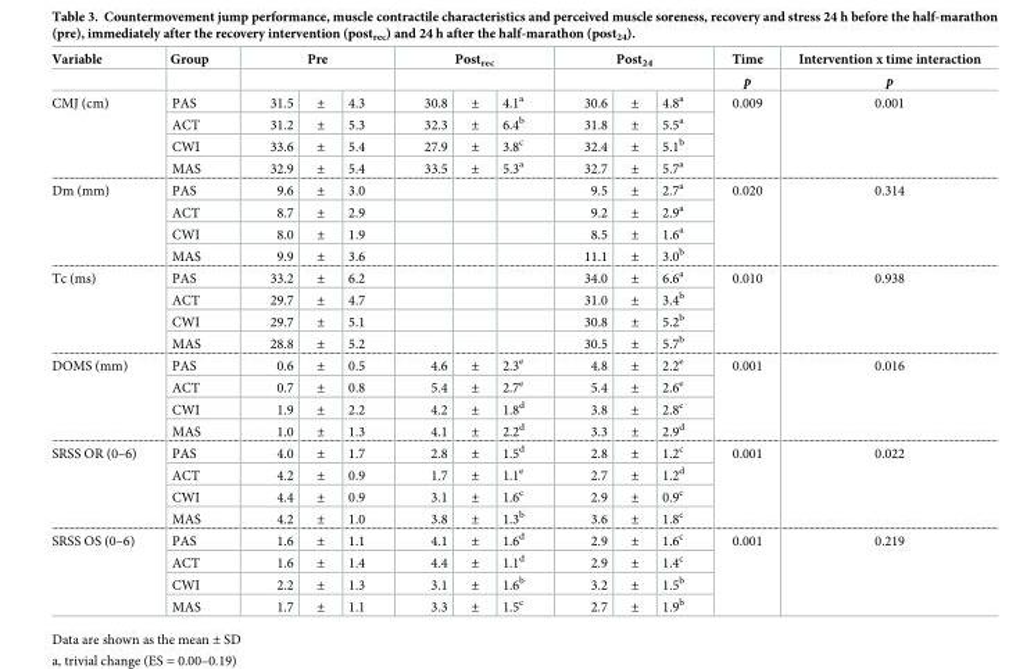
<table><thead><tr><td rowspan="2">Variable</td><td rowspan="2">Group</td><td colspan="3">Pre</td><td colspan="3">Post<sub>rec</sub></td><td colspan="3">Post<sub>24</sub></td><td rowspan="2">Time p</td><td rowspan="2">Intervention x time interaction p</td></tr><tr><td></td><td></td><td></td><td></td><td></td><td></td><td></td><td></td><td></td></tr></thead><tbody><tr><td rowspan="4">CMJ (cm)</td><td>PAS</td><td>31.5</td><td>±</td><td>4.3</td><td>30.8</td><td>±</td><td>4.1<sup>a</sup></td><td>30.6</td><td>±</td><td>4.8<sup>a</sup></td><td rowspan="4">0.009</td><td rowspan="4">0.001</td></tr><tr><td>ACT</td><td>31.2</td><td>±</td><td>5.3</td><td>32.3</td><td>±</td><td>6.4<sup>b</sup></td><td>31.8</td><td>±</td><td>5.5<sup>a</sup></td></tr><tr><td>CWI</td><td>33.6</td><td>±</td><td>5.4</td><td>27.9</td><td>±</td><td>3.8<sup>c</sup></td><td>32.4</td><td>±</td><td>5.1<sup>b</sup></td></tr><tr><td>MAS</td><td>32.9</td><td>±</td><td>5.4</td><td>33.5</td><td>±</td><td>5.3<sup>a</sup></td><td>32.7</td><td>±</td><td>5.7<sup>a</sup></td></tr><tr><td rowspan="4">Dm (mm)</td><td>PAS</td><td>9.6</td><td>±</td><td>3.0</td><td></td><td></td><td></td><td>9.5</td><td>±</td><td>2.7<sup>a</sup></td><td rowspan="4">0.020</td><td rowspan="4">0.314</td></tr><tr><td>ACT</td><td>8.7</td><td>±</td><td>2.9</td><td></td><td></td><td></td><td>9.2</td><td>±</td><td>2.9<sup>a</sup></td></tr><tr><td>CWI</td><td>8.0</td><td>±</td><td>1.9</td><td></td><td></td><td></td><td>8.5</td><td>±</td><td>1.6<sup>a</sup></td></tr><tr><td>MAS</td><td>9.9</td><td>±</td><td>3.6</td><td></td><td></td><td></td><td>11.1</td><td>±</td><td>3.0<sup>b</sup></td></tr><tr><td rowspan="4">Tc (ms)</td><td>PAS</td><td>33.2</td><td>±</td><td>6.2</td><td></td><td></td><td></td><td>34.0</td><td>±</td><td>6.6<sup>a</sup></td><td rowspan="4">0.010</td><td rowspan="4">0.938</td></tr><tr><td>ACT</td><td>29.7</td><td>±</td><td>4.7</td><td></td><td></td><td></td><td>31.0</td><td>±</td><td>3.4<sup>b</sup></td></tr><tr><td>CWI</td><td>29.7</td><td>±</td><td>5.1</td><td></td><td></td><td></td><td>30.8</td><td>±</td><td>5.2<sup>b</sup></td></tr><tr><td>MAS</td><td>28.8</td><td>±</td><td>5.2</td><td></td><td></td><td></td><td>30.5</td><td>±</td><td>5.7<sup>b</sup></td></tr><tr><td rowspan="4">DOMS (mm)</td><td>PAS</td><td>0.6</td><td>±</td><td>0.5</td><td>4.6</td><td>±</td><td>2.3<sup>e</sup></td><td>4.8</td><td>±</td><td>2.2<sup>e</sup></td><td rowspan="4">0.001</td><td rowspan="4">0.016</td></tr><tr><td>ACT</td><td>0.7</td><td>±</td><td>0.8</td><td>5.4</td><td>±</td><td>2.7<sup>e</sup></td><td>5.4</td><td>±</td><td>2.6<sup>e</sup></td></tr><tr><td>CWI</td><td>1.9</td><td>±</td><td>2.2</td><td>4.2</td><td>±</td><td>1.8<sup>d</sup></td><td>3.8</td><td>±</td><td>2.8<sup>c</sup></td></tr><tr><td>MAS</td><td>1.0</td><td>±</td><td>1.3</td><td>4.1</td><td>±</td><td>2.2<sup>d</sup></td><td>3.3</td><td>±</td><td>2.9<sup>d</sup></td></tr><tr><td rowspan="4">SRSS OR (0–6)</td><td>PAS</td><td>4.0</td><td>±</td><td>1.7</td><td>2.8</td><td>±</td><td>1.5<sup>d</sup></td><td>2.8</td><td>±</td><td>1.2<sup>c</sup></td><td rowspan="4">0.001</td><td rowspan="4">0.022</td></tr><tr><td>ACT</td><td>4.2</td><td>±</td><td>0.9</td><td>1.7</td><td>±</td><td>1.1<sup>e</sup></td><td>2.7</td><td>±</td><td>1.2<sup>d</sup></td></tr><tr><td>CWI</td><td>4.4</td><td>±</td><td>0.9</td><td>3.1</td><td>±</td><td>1.6<sup>c</sup></td><td>2.9</td><td>±</td><td>0.9<sup>c</sup></td></tr><tr><td>MAS</td><td>4.2</td><td>±</td><td>1.0</td><td>3.8</td><td>±</td><td>1.3<sup>b</sup></td><td>3.6</td><td>±</td><td>1.8<sup>c</sup></td></tr><tr><td rowspan="4">SRSS OS (0–6)</td><td>PAS</td><td>1.6</td><td>±</td><td>1.1</td><td>4.1</td><td>±</td><td>1.6<sup>d</sup></td><td>2.9</td><td>±</td><td>1.6<sup>c</sup></td><td rowspan="4">0.001</td><td rowspan="4">0.219</td></tr><tr><td>ACT</td><td>1.6</td><td>±</td><td>1.4</td><td>4.4</td><td>±</td><td>1.1<sup>d</sup></td><td>2.9</td><td>±</td><td>1.4<sup>c</sup></td></tr><tr><td>CWI</td><td>2.2</td><td>±</td><td>1.3</td><td>3.1</td><td>±</td><td>1.6<sup>b</sup></td><td>3.2</td><td>±</td><td>1.5<sup>b</sup></td></tr><tr><td>MAS</td><td>1.7</td><td>±</td><td>1.1</td><td>3.3</td><td>±</td><td>1.5<sup>c</sup></td><td>2.7</td><td>±</td><td>1.9<sup>b</sup></td></tr></tbody></table>